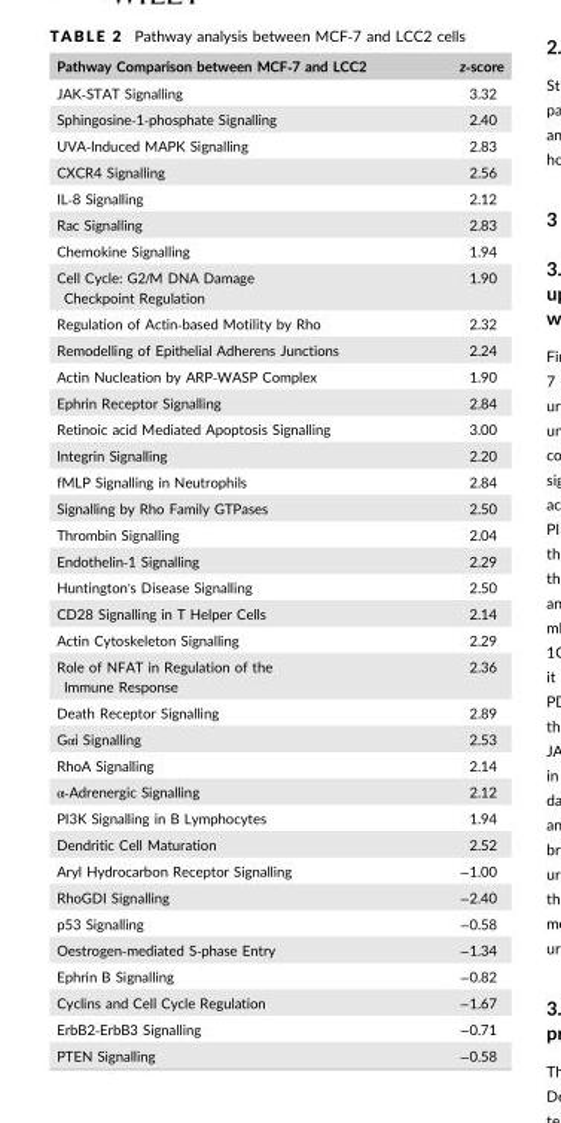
<table><thead><tr><td>Pathway Comparison between MCF‐7 and LCC2</td><td>z‐score</td></tr></thead><tbody><tr><td>JAK‐STAT Signalling</td><td>3.32</td></tr><tr><td>Sphingosine‐1‐phosphate Signalling</td><td>2.40</td></tr><tr><td>UVA‐Induced MAPK Signalling</td><td>2.83</td></tr><tr><td>CXCR4 Signalling</td><td>2.56</td></tr><tr><td>IL‐8 Signalling</td><td>2.12</td></tr><tr><td>Rac Signalling</td><td>2.83</td></tr><tr><td>Chemokine Signalling</td><td>1.94</td></tr><tr><td>Cell Cycle: G2/M DNA Damage Checkpoint Regulation</td><td>1.90</td></tr><tr><td>Regulation of Actin‐based Motility by Rho</td><td>2.32</td></tr><tr><td>Remodelling of Epithelial Adherens Junctions</td><td>2.24</td></tr><tr><td>Actin Nucleation by ARP‐WASP Complex</td><td>1.90</td></tr><tr><td>Ephrin Receptor Signalling</td><td>2.84</td></tr><tr><td>Retinoic acid Mediated Apoptosis Signalling</td><td>3.00</td></tr><tr><td>Integrin Signalling</td><td>2.20</td></tr><tr><td>fMLP Signalling in Neutrophils</td><td>2.84</td></tr><tr><td>Signalling by Rho Family GTPases</td><td>2.50</td></tr><tr><td>Thrombin Signalling</td><td>2.04</td></tr><tr><td>Endothelin‐1 Signalling</td><td>2.29</td></tr><tr><td>Huntington&#x27;s Disease Signalling</td><td>2.50</td></tr><tr><td>CD28 Signalling in T Helper Cells</td><td>2.14</td></tr><tr><td>Actin Cytoskeleton Signalling</td><td>2.29</td></tr><tr><td>Role of NFAT in Regulation of the Immune Response</td><td>2.36</td></tr><tr><td>Death Receptor Signalling</td><td>2.89</td></tr><tr><td>Gαi Signalling</td><td>2.53</td></tr><tr><td>RhoA Signalling</td><td>2.14</td></tr><tr><td>α‐Adrenergic Signalling</td><td>2.12</td></tr><tr><td>PI3K Signalling in B Lymphocytes</td><td>1.94</td></tr><tr><td>Dendritic Cell Maturation</td><td>2.52</td></tr><tr><td>Aryl Hydrocarbon Receptor Signalling</td><td>−1.00</td></tr><tr><td>RhoGDI Signalling</td><td>−2.40</td></tr><tr><td>p53 Signalling</td><td>−0.58</td></tr><tr><td>Oestrogen‐mediated S‐phase Entry</td><td>−1.34</td></tr><tr><td>Ephrin B Signalling</td><td>−0.82</td></tr><tr><td>Cyclins and Cell Cycle Regulation</td><td>−1.67</td></tr><tr><td>ErbB2‐ErbB3 Signalling</td><td>−0.71</td></tr><tr><td>PTEN Signalling</td><td>−0.58</td></tr></tbody></table>